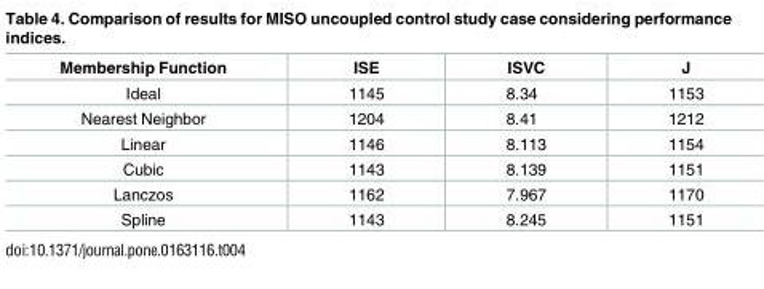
<table><thead><tr><td>Membership Function</td><td>ISE</td><td>ISVC</td><td>J</td></tr></thead><tbody><tr><td>Ideal</td><td>1145</td><td>8.34</td><td>1153</td></tr><tr><td>Nearest Neighbor</td><td>1204</td><td>8.41</td><td>1212</td></tr><tr><td>Linear</td><td>1146</td><td>8.113</td><td>1154</td></tr><tr><td>Cubic</td><td>1143</td><td>8.139</td><td>1151</td></tr><tr><td>Lanczos</td><td>1162</td><td>7.967</td><td>1170</td></tr><tr><td>Spline</td><td>1143</td><td>8.245</td><td>1151</td></tr></tbody></table>